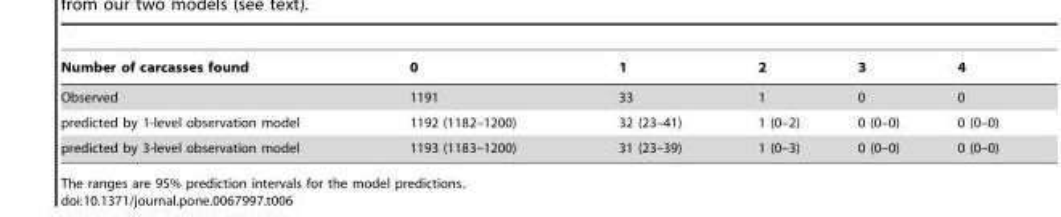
<table><thead><tr><td>Number of carcasses found</td><td>0</td><td>1</td><td>2</td><td>3</td><td>4</td></tr></thead><tbody><tr><td>Observed</td><td>1191</td><td>33</td><td>1</td><td>0</td><td>0</td></tr><tr><td>predicted by 1-level observation model</td><td>1192 (1182–1200)</td><td>32 (23–41)</td><td>1 (0–2)</td><td>0 (0–0)</td><td>0 (0–0)</td></tr><tr><td>predicted by 3-level observation model</td><td>1193 (1183–1200)</td><td>31 (23–39)</td><td>1 (0–3)</td><td>0 (0–0)</td><td>0 (0–0)</td></tr></tbody></table>